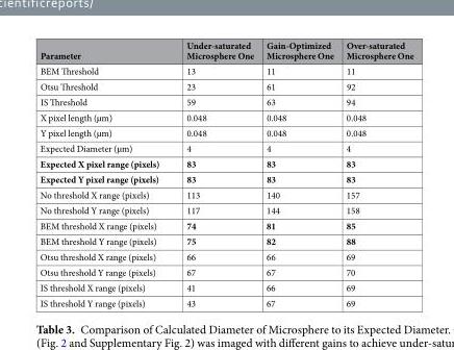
<table><thead><tr><td>Parameter</td><td>Under-saturated Microsphere One</td><td>Gain-Optimized Microsphere One</td><td>Over-saturated Microsphere One</td></tr></thead><tbody><tr><td>BEM Threshold</td><td>13</td><td>11</td><td>11</td></tr><tr><td>Otsu Threshold</td><td>23</td><td>61</td><td>92</td></tr><tr><td>IS Threshold</td><td>59</td><td>63</td><td>94</td></tr><tr><td>X pixel length (µm)</td><td>0.048</td><td>0.048</td><td>0.048</td></tr><tr><td>Y pixel length (µm)</td><td>0.048</td><td>0.048</td><td>0.048</td></tr><tr><td>Expected Diameter (µm)</td><td>4</td><td>4</td><td>4</td></tr><tr><td>Expected X pixel range (pixels)</td><td>83</td><td>83</td><td>83</td></tr><tr><td>Expected Y pixel range (pixels)</td><td>83</td><td>83</td><td>83</td></tr><tr><td>No threshold X range (pixels)</td><td>113</td><td>140</td><td>157</td></tr><tr><td>No threshold Y range (pixels)</td><td>117</td><td>144</td><td>158</td></tr><tr><td>BEM threshold X range (pixels)</td><td>74</td><td>81</td><td>85</td></tr><tr><td>BEM threshold Y range (pixels)</td><td>75</td><td>82</td><td>88</td></tr><tr><td>Otsu threshold X range (pixels)</td><td>66</td><td>66</td><td>69</td></tr><tr><td>Otsu threshold Y range (pixels)</td><td>67</td><td>67</td><td>70</td></tr><tr><td>IS threshold X range (pixels)</td><td>41</td><td>66</td><td>69</td></tr><tr><td>IS threshold Y range (pixels)</td><td>43</td><td>67</td><td>69</td></tr></tbody></table>